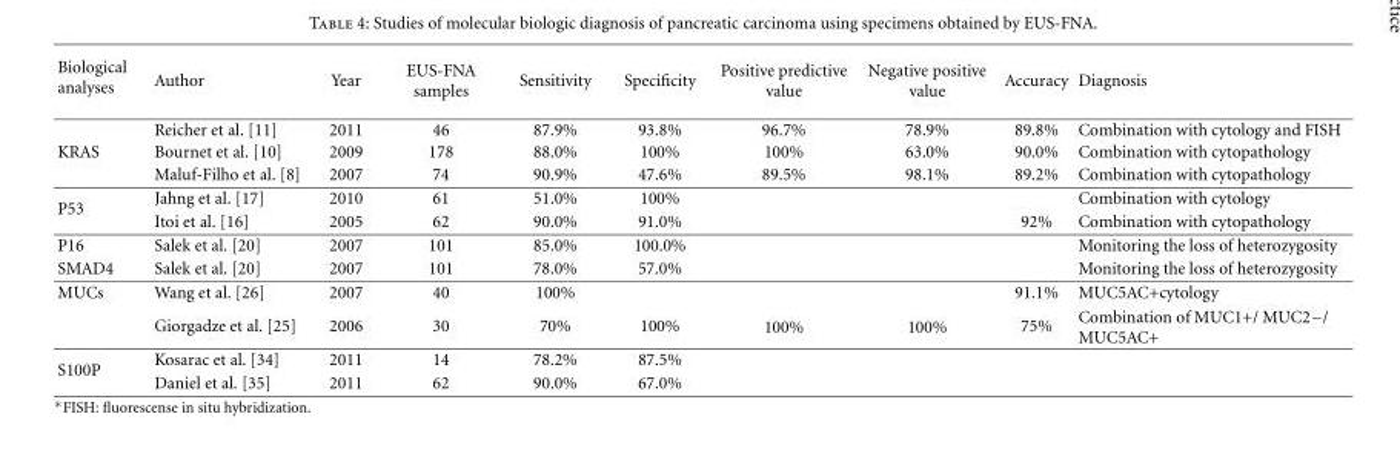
<table><thead><tr><td>Biological analyses</td><td>Author</td><td>Year</td><td>EUS-FNA samples</td><td>Sensitivity</td><td>Specificity</td><td>Positive predictive value</td><td>Negative positive value</td><td>Accuracy</td><td>Diagnosis</td></tr></thead><tbody><tr><td></td><td>Reicher et al. [11]</td><td>2011</td><td>46</td><td>87.9%</td><td>93.8%</td><td>96.7%</td><td>78.9%</td><td>89.8%</td><td>Combination with cytology and FISH</td></tr><tr><td rowspan="2">KRAS</td><td>Bournet et al. [10]</td><td>2009</td><td>178</td><td>88.0%</td><td>100%</td><td>100%</td><td>63.0%</td><td>90.0%</td><td>Combination with cytopathology</td></tr><tr><td>Maluf-Filho et al. [8]</td><td>2007</td><td>74</td><td>90.9%</td><td>47.6%</td><td>89.5%</td><td>98.1%</td><td>89.2%</td><td>Combination with cytopathology</td></tr><tr><td rowspan="2">P53</td><td>Jahng et al. [17]</td><td>2010</td><td>61</td><td>51.0%</td><td>100%</td><td></td><td></td><td></td><td>Combination with cytology</td></tr><tr><td>Itoi et al. [16]</td><td>2005</td><td>62</td><td>90.0%</td><td>91.0%</td><td></td><td></td><td>92%</td><td>Combination with cytopathology</td></tr><tr><td>P16</td><td>Salek et al. [20]</td><td>2007</td><td>101</td><td>85.0%</td><td>100.0%</td><td></td><td></td><td></td><td>Monitoring the loss of heterozygosity</td></tr><tr><td>SMAD4</td><td>Salek et al. [20]</td><td>2007</td><td>101</td><td>78.0%</td><td>57.0%</td><td></td><td></td><td></td><td>Monitoring the loss of heterozygosity</td></tr><tr><td rowspan="2">MUCs</td><td>Wang et al. [26]</td><td>2007</td><td>40</td><td>100%</td><td></td><td></td><td></td><td>91.1%</td><td>MUC5AC+cytology</td></tr><tr><td>Giorgadze et al. [25]</td><td>2006</td><td>30</td><td>70%</td><td>100%</td><td>100%</td><td>100%</td><td>75%</td><td>Combination of MUC1+/ MUC2−/ MUC5AC+</td></tr><tr><td rowspan="2">S100P</td><td>Kosarac et al. [34]</td><td>2011</td><td>14</td><td>78.2%</td><td>87.5%</td><td></td><td></td><td></td><td></td></tr><tr><td>Daniel et al. [35]</td><td>2011</td><td>62</td><td>90.0%</td><td>67.0%</td><td></td><td></td><td></td><td></td></tr></tbody></table>